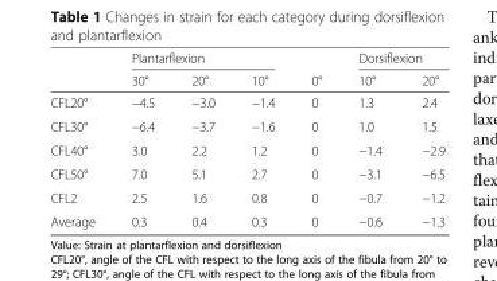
<table><thead><tr><td rowspan="2"></td><td colspan="3">Plantarflexion</td><td rowspan="2">0°</td><td colspan="2">Dorsiflexion</td></tr><tr><td>30°</td><td>20°</td><td>10°</td><td>10°</td><td>20°</td></tr></thead><tbody><tr><td>CFL20°</td><td>−4.5</td><td>−3.0</td><td>−1.4</td><td>0</td><td>1.3</td><td>2.4</td></tr><tr><td>CFL30°</td><td>−6.4</td><td>−3.7</td><td>−1.6</td><td>0</td><td>1.0</td><td>1.5</td></tr><tr><td>CFL40°</td><td>3.0</td><td>2.2</td><td>1.2</td><td>0</td><td>−1.4</td><td>−2.9</td></tr><tr><td>CFL50°</td><td>7.0</td><td>5.1</td><td>2.7</td><td>0</td><td>−3.1</td><td>−6.5</td></tr><tr><td>CFL2</td><td>2.5</td><td>1.6</td><td>0.8</td><td>0</td><td>−0.7</td><td>−1.2</td></tr><tr><td>Average</td><td>0.3</td><td>0.4</td><td>0.3</td><td>0</td><td>−0.6</td><td>−1.3</td></tr></tbody></table>